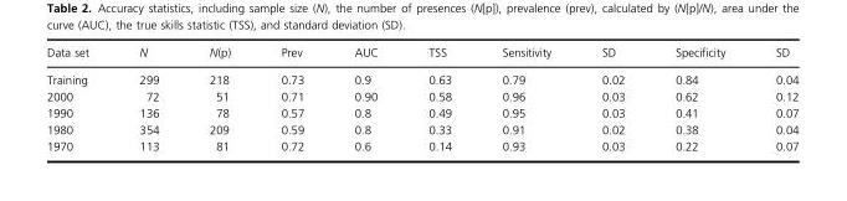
<table><thead><tr><td>Data set</td><td>N</td><td>N(p)</td><td>Prev</td><td>AUC</td><td>TSS</td><td>Sensitivity</td><td>SD</td><td>Specificity</td><td>SD</td></tr></thead><tbody><tr><td>Training</td><td>299</td><td>218</td><td>0.73</td><td>0.9</td><td>0.63</td><td>0.79</td><td>0.02</td><td>0.84</td><td>0.04</td></tr><tr><td>2000</td><td>72</td><td>51</td><td>0.71</td><td>0.90</td><td>0.58</td><td>0.96</td><td>0.03</td><td>0.62</td><td>0.12</td></tr><tr><td>1990</td><td>136</td><td>78</td><td>0.57</td><td>0.8</td><td>0.49</td><td>0.95</td><td>0.03</td><td>0.41</td><td>0.07</td></tr><tr><td>1980</td><td>354</td><td>209</td><td>0.59</td><td>0.8</td><td>0.33</td><td>0.91</td><td>0.02</td><td>0.38</td><td>0.04</td></tr><tr><td>1970</td><td>113</td><td>81</td><td>0.72</td><td>0.6</td><td>0.14</td><td>0.93</td><td>0.03</td><td>0.22</td><td>0.07</td></tr></tbody></table>